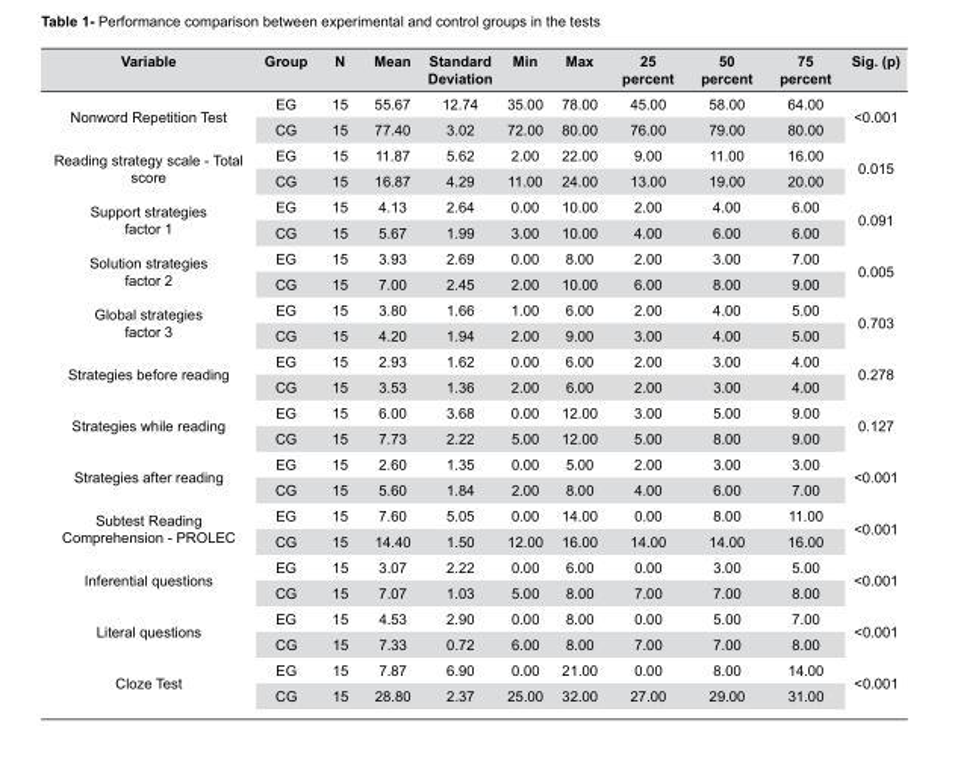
<table><thead><tr><td>Variable</td><td>Group</td><td>N</td><td>Mean</td><td>Standard Deviation</td><td>Min</td><td>Max</td><td>25 percent</td><td>50 percent</td><td>75 percent</td><td>Sig. (p)</td></tr></thead><tbody><tr><td rowspan="2">Nonword Repetition Test</td><td>EG</td><td>15</td><td>55.67</td><td>12.74</td><td>35.00</td><td>78.00</td><td>45.00</td><td>58.00</td><td>64.00</td><td rowspan="2">&lt;0.001</td></tr><tr><td>CG</td><td>15</td><td>77.40</td><td>3.02</td><td>72.00</td><td>80.00</td><td>76.00</td><td>79.00</td><td>80.00</td></tr><tr><td rowspan="2">Reading strategy scale - Total score</td><td>EG</td><td>15</td><td>11.87</td><td>5.62</td><td>2.00</td><td>22.00</td><td>9.00</td><td>11.00</td><td>16.00</td><td rowspan="2">0.015</td></tr><tr><td>CG</td><td>15</td><td>16.87</td><td>4.29</td><td>11.00</td><td>24.00</td><td>13.00</td><td>19.00</td><td>20.00</td></tr><tr><td rowspan="2">Support strategies factor 1</td><td>EG</td><td>15</td><td>4.13</td><td>2.64</td><td>0.00</td><td>10.00</td><td>2.00</td><td>4.00</td><td>6.00</td><td rowspan="2">0.091</td></tr><tr><td>CG</td><td>15</td><td>5.67</td><td>1.99</td><td>3.00</td><td>10.00</td><td>4.00</td><td>6.00</td><td>6.00</td></tr><tr><td rowspan="2">Solution strategies factor 2</td><td>EG</td><td>15</td><td>3.93</td><td>2.69</td><td>0.00</td><td>8.00</td><td>2.00</td><td>3.00</td><td>7.00</td><td rowspan="2">0.005</td></tr><tr><td>CG</td><td>15</td><td>7.00</td><td>2.45</td><td>2.00</td><td>10.00</td><td>6.00</td><td>8.00</td><td>9.00</td></tr><tr><td rowspan="2">Global strategies factor 3</td><td>EG</td><td>15</td><td>3.80</td><td>1.66</td><td>1.00</td><td>6.00</td><td>2.00</td><td>4.00</td><td>5.00</td><td rowspan="2">0.703</td></tr><tr><td>CG</td><td>15</td><td>4.20</td><td>1.94</td><td>2.00</td><td>9.00</td><td>3.00</td><td>4.00</td><td>5.00</td></tr><tr><td rowspan="2">Strategies before reading</td><td>EG</td><td>15</td><td>2.93</td><td>1.62</td><td>0.00</td><td>6.00</td><td>2.00</td><td>3.00</td><td>4.00</td><td rowspan="2">0.278</td></tr><tr><td>CG</td><td>15</td><td>3.53</td><td>1.36</td><td>2.00</td><td>6.00</td><td>2.00</td><td>3.00</td><td>4.00</td></tr><tr><td rowspan="2">Strategies while reading</td><td>EG</td><td>15</td><td>6.00</td><td>3.68</td><td>0.00</td><td>12.00</td><td>3.00</td><td>5.00</td><td>9.00</td><td rowspan="2">0.127</td></tr><tr><td>CG</td><td>15</td><td>7.73</td><td>2.22</td><td>5.00</td><td>12.00</td><td>5.00</td><td>8.00</td><td>9.00</td></tr><tr><td rowspan="2">Strategies after reading</td><td>EG</td><td>15</td><td>2.60</td><td>1.35</td><td>0.00</td><td>5.00</td><td>2.00</td><td>3.00</td><td>3.00</td><td rowspan="2">&lt;0.001</td></tr><tr><td>CG</td><td>15</td><td>5.60</td><td>1.84</td><td>2.00</td><td>8.00</td><td>4.00</td><td>6.00</td><td>7.00</td></tr><tr><td rowspan="2">Subtest Reading Comprehension - PROLEC</td><td>EG</td><td>15</td><td>7.60</td><td>5.05</td><td>0.00</td><td>14.00</td><td>0.00</td><td>8.00</td><td>11.00</td><td rowspan="2">&lt;0.001</td></tr><tr><td>CG</td><td>15</td><td>14.40</td><td>1.50</td><td>12.00</td><td>16.00</td><td>14.00</td><td>14.00</td><td>16.00</td></tr><tr><td rowspan="2">Inferential questions</td><td>EG</td><td>15</td><td>3.07</td><td>2.22</td><td>0.00</td><td>6.00</td><td>0.00</td><td>3.00</td><td>5.00</td><td rowspan="2">&lt;0.001</td></tr><tr><td>CG</td><td>15</td><td>7.07</td><td>1.03</td><td>5.00</td><td>8.00</td><td>7.00</td><td>7.00</td><td>8.00</td></tr><tr><td rowspan="2">Literal questions</td><td>EG</td><td>15</td><td>4.53</td><td>2.90</td><td>0.00</td><td>8.00</td><td>0.00</td><td>5.00</td><td>7.00</td><td rowspan="2">&lt;0.001</td></tr><tr><td>CG</td><td>15</td><td>7.33</td><td>0.72</td><td>6.00</td><td>8.00</td><td>7.00</td><td>7.00</td><td>8.00</td></tr><tr><td rowspan="2">Cloze Test</td><td>EG</td><td>15</td><td>7.87</td><td>6.90</td><td>0.00</td><td>21.00</td><td>0.00</td><td>8.00</td><td>14.00</td><td rowspan="2">&lt;0.001</td></tr><tr><td>CG</td><td>15</td><td>28.80</td><td>2.37</td><td>25.00</td><td>32.00</td><td>27.00</td><td>29.00</td><td>31.00</td></tr></tbody></table>